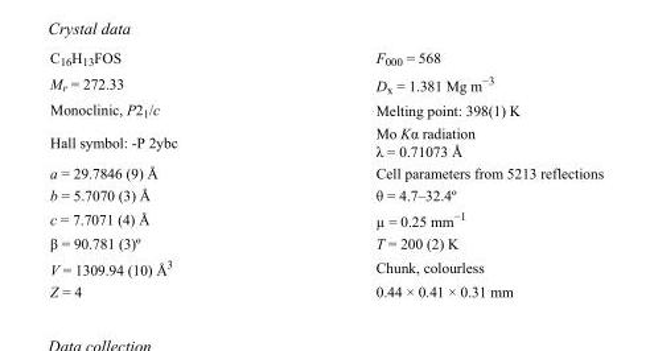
<table><tbody><tr><td>C<sub>16</sub>H<sub>13</sub>FOS</td><td>F000 = 568</td></tr><tr><td>M<sub>r</sub> = 272.33</td><td>D<sub>x</sub> = 1.381 Mg m<sup>−3</sup></td></tr><tr><td>Monoclinic, P2<sub>1</sub>/c</td><td>Melting point: 398(1) K</td></tr><tr><td>Hall symbol: -P 2ybc</td><td>Mo Kα radiation λ = 0.71073 Å</td></tr><tr><td>a = 29.7846 (9) Å</td><td>Cell parameters from 5213 reflections</td></tr><tr><td>b = 5.7070 (3) Å</td><td>θ = 4.7–32.4º</td></tr><tr><td>c = 7.7071 (4) Å</td><td>µ = 0.25 mm<sup>−1</sup></td></tr><tr><td>β = 90.781 (3)º</td><td>T = 200 (2) K</td></tr><tr><td>V = 1309.94 (10) Å<sup>3</sup></td><td>Chunk, colourless</td></tr><tr><td>Z = 4</td><td>0.44 × 0.41 × 0.31 mm</td></tr></tbody></table>